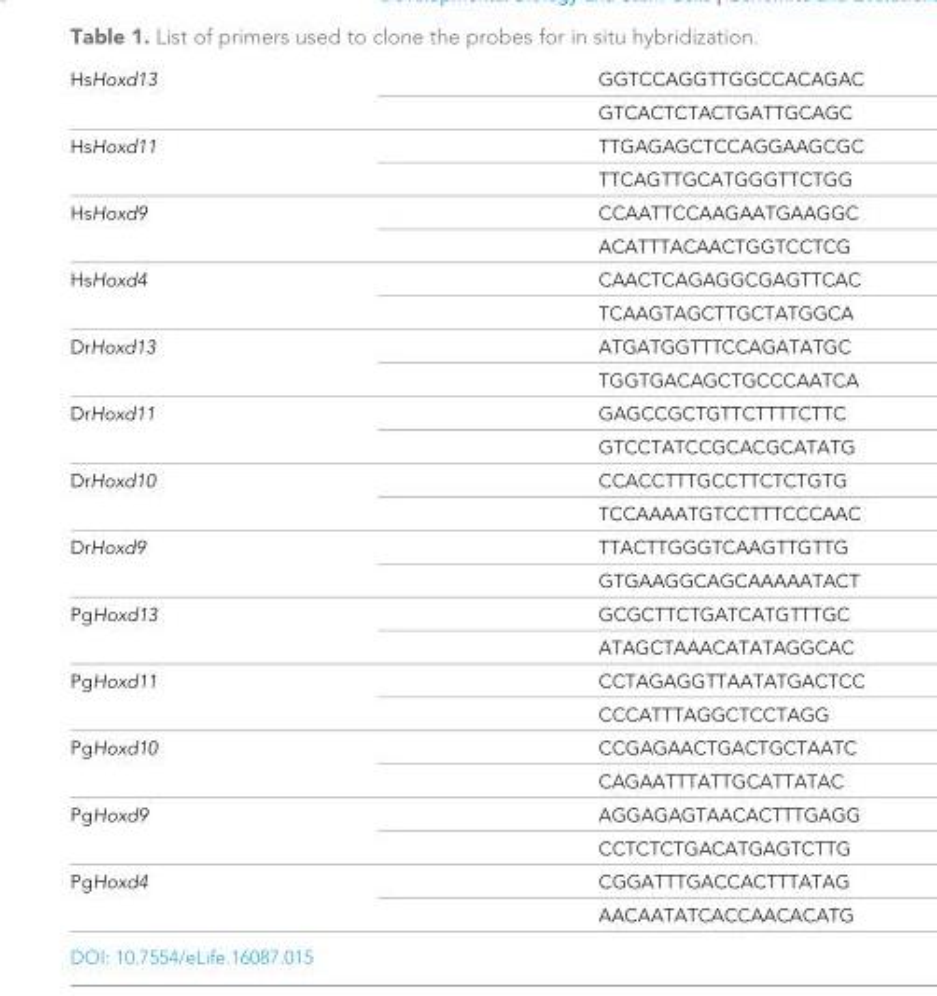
<table><tbody><tr><td rowspan="2">HsHoxd13</td><td>GGTCCAGGTTGGCCACAGAC</td></tr><tr><td>GTCACTCTACTGATTGCAGC</td></tr><tr><td rowspan="2">HsHoxd11</td><td>TTGAGAGCTCCAGGAAGCGC</td></tr><tr><td>TTCAGTTGCATGGGTTCTGG</td></tr><tr><td rowspan="2">HsHoxd9</td><td>CCAATTCCAAGAATGAAGGC</td></tr><tr><td>ACATTTACAACTGGTCCTCG</td></tr><tr><td rowspan="2">HsHoxd4</td><td>CAACTCAGAGGCGAGTTCAC</td></tr><tr><td>TCAAGTAGCTTGCTATGGCA</td></tr><tr><td rowspan="2">DrHoxd13</td><td>ATGATGGTTTCCAGATATGC</td></tr><tr><td>TGGTGACAGCTGCCCAATCA</td></tr><tr><td rowspan="2">DrHoxd11</td><td>GAGCCGCTGTTCTTTTCTTC</td></tr><tr><td>GTCCTATCCGCACGCATATG</td></tr><tr><td rowspan="2">DrHoxd10</td><td>CCACCTTTGCCTTCTCTGTG</td></tr><tr><td>TCCAAAATGTCCTTTCCCAAC</td></tr><tr><td rowspan="2">DrHoxd9</td><td>TTACTTGGGTCAAGTTGTTG</td></tr><tr><td>GTGAAGGCAGCAAAAATACT</td></tr><tr><td rowspan="2">PgHoxd13</td><td>GCGCTTCTGATCATGTTTGC</td></tr><tr><td>ATAGCTAAACATATAGGCAC</td></tr><tr><td rowspan="2">PgHoxd11</td><td>CCTAGAGGTTAATATGACTCC</td></tr><tr><td>CCCATTTAGGCTCCTAGG</td></tr><tr><td rowspan="2">PgHoxd10</td><td>CCGAGAACTGACTGCTAATC</td></tr><tr><td>CAGAATTTATTGCATTATAC</td></tr><tr><td rowspan="2">PgHoxd9</td><td>AGGAGAGTAACACTTTGAGG</td></tr><tr><td>CCTCTCTGACATGAGTCTTG</td></tr><tr><td rowspan="2">PgHoxd4</td><td>CGGATTTGACCACTTTATAG</td></tr><tr><td>AACAATATCACCAACACATG</td></tr></tbody></table>